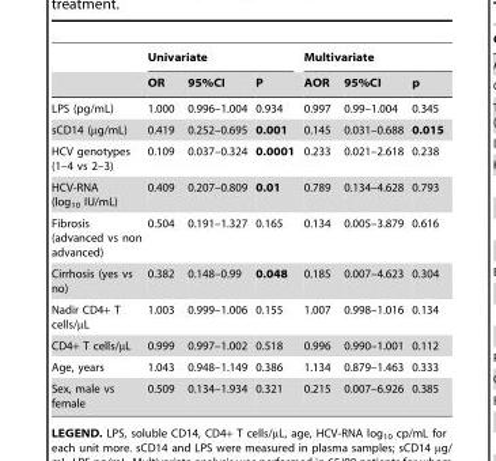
<table><thead><tr><td rowspan="2"></td><td colspan="3">Univariate</td><td colspan="3">Multivariate</td></tr><tr><td>OR</td><td>95%CI</td><td>P</td><td>AOR</td><td>95%CI</td><td>p</td></tr></thead><tbody><tr><td>LPS (pg/mL)</td><td>1.000</td><td>0.996–1.004</td><td>0.934</td><td>0.997</td><td>0.99–1.004</td><td>0.345</td></tr><tr><td>sCD14 (µg/mL)</td><td>0.419</td><td>0.252–0.695</td><td>0.001</td><td>0.145</td><td>0.031–0.688</td><td>0.015</td></tr><tr><td>HCV genotypes (1–4 vs 2–3)</td><td>0.109</td><td>0.037–0.324</td><td>0.0001</td><td>0.233</td><td>0.021–2.618</td><td>0.238</td></tr><tr><td>HCV-RNA (log<sub>10</sub> IU/mL)</td><td>0.409</td><td>0.207–0.809</td><td>0.01</td><td>0.789</td><td>0.134–4.628</td><td>0.793</td></tr><tr><td>Fibrosis (advanced vs non advanced)</td><td>0.504</td><td>0.191–1.327</td><td>0.165</td><td>0.134</td><td>0.005–3.879</td><td>0.616</td></tr><tr><td>Cirrhosis (yes vs no)</td><td>0.382</td><td>0.148–0.99</td><td>0.048</td><td>0.185</td><td>0.007–4.623</td><td>0.304</td></tr><tr><td>Nadir CD4+ T cells/µL</td><td>1.003</td><td>0.999–1.006</td><td>0.155</td><td>1.007</td><td>0.998–1.016</td><td>0.134</td></tr><tr><td>CD4+ T cells/µL</td><td>0.999</td><td>0.997–1.002</td><td>0.518</td><td>0.996</td><td>0.990–1.001</td><td>0.112</td></tr><tr><td>Age, years</td><td>1.043</td><td>0.948–1.149</td><td>0.386</td><td>1.134</td><td>0.879–1.463</td><td>0.333</td></tr><tr><td>Sex, male vs female</td><td>0.509</td><td>0.134–1.934</td><td>0.321</td><td>0.215</td><td>0.007–6.926</td><td>0.385</td></tr></tbody></table>